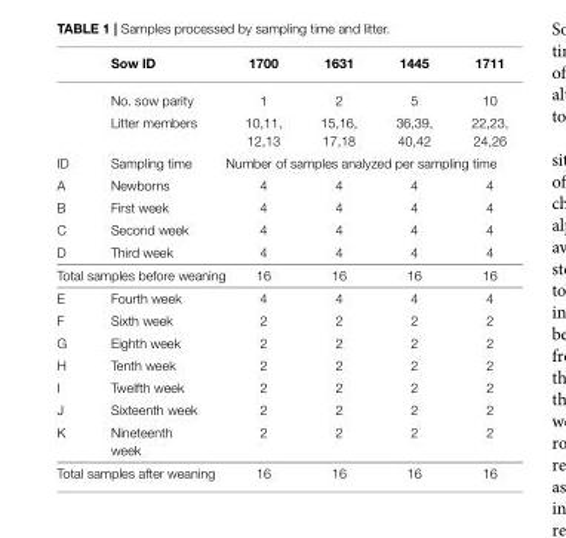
<table><thead><tr><td></td><td>Sow ID</td><td>1700</td><td>1631</td><td>1445</td><td>1711</td></tr></thead><tbody><tr><td></td><td>No. sow parity</td><td>1</td><td>2</td><td>5</td><td>10</td></tr><tr><td></td><td>Litter members</td><td>10,11, 12,13</td><td>15,16, 17,18</td><td>36,39, 40,42</td><td>22,23, 24,26</td></tr><tr><td>ID</td><td>Sampling time</td><td colspan="4">Number of samples analyzed per sampling time</td></tr><tr><td>A</td><td>Newborns</td><td>4</td><td>4</td><td>4</td><td>4</td></tr><tr><td>B</td><td>First week</td><td>4</td><td>4</td><td>4</td><td>4</td></tr><tr><td>C</td><td>Second week</td><td>4</td><td>4</td><td>4</td><td>4</td></tr><tr><td>D</td><td>Third week</td><td>4</td><td>4</td><td>4</td><td>4</td></tr><tr><td colspan="2">Total samples before weaning</td><td>16</td><td>16</td><td>16</td><td>16</td></tr><tr><td>E</td><td>Fourth week</td><td>4</td><td>4</td><td>4</td><td>4</td></tr><tr><td>F</td><td>Sixth week</td><td>2</td><td>2</td><td>2</td><td>2</td></tr><tr><td>G</td><td>Eighth week</td><td>2</td><td>2</td><td>2</td><td>2</td></tr><tr><td>H</td><td>Tenth week</td><td>2</td><td>2</td><td>2</td><td>2</td></tr><tr><td>I</td><td>Twelfth week</td><td>2</td><td>2</td><td>2</td><td>2</td></tr><tr><td>J</td><td>Sixteenth week</td><td>2</td><td>2</td><td>2</td><td>2</td></tr><tr><td>K</td><td>Nineteenth week</td><td>2</td><td>2</td><td>2</td><td>2</td></tr><tr><td colspan="2">Total samples after weaning</td><td>16</td><td>16</td><td>16</td><td>16</td></tr></tbody></table>